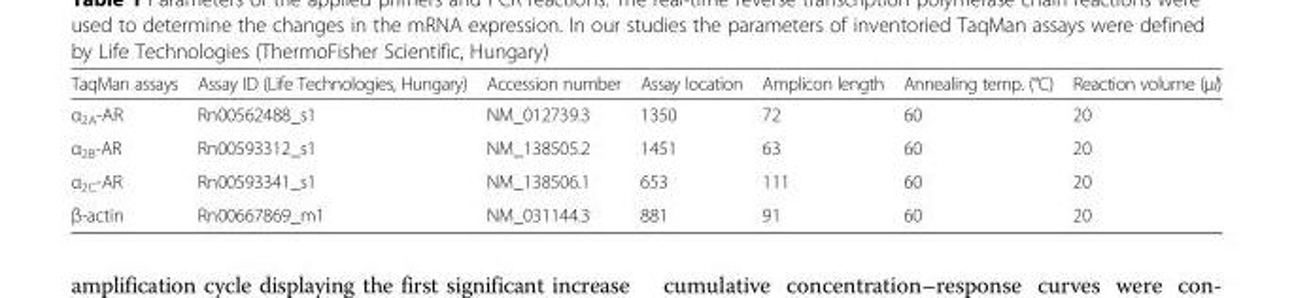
<table><thead><tr><td>TaqMan assays</td><td>Assay ID (Life Technologies, Hungary)</td><td>Accession number</td><td>Assay location</td><td>Amplicon length</td><td>Annealing temp. (°C)</td><td>Reaction volume (μl)</td></tr></thead><tbody><tr><td>α<sub>2A</sub>-AR</td><td>Rn00562488_s1</td><td>NM_012739.3</td><td>1350</td><td>72</td><td>60</td><td>20</td></tr><tr><td>α<sub>2B</sub>-AR</td><td>Rn00593312_s1</td><td>NM_138505.2</td><td>1451</td><td>63</td><td>60</td><td>20</td></tr><tr><td>α<sub>2C</sub>-AR</td><td>Rn00593341_s1</td><td>NM_138506.1</td><td>653</td><td>111</td><td>60</td><td>20</td></tr><tr><td>β-actin</td><td>Rn00667869_m1</td><td>NM_031144.3</td><td>881</td><td>91</td><td>60</td><td>20</td></tr></tbody></table>